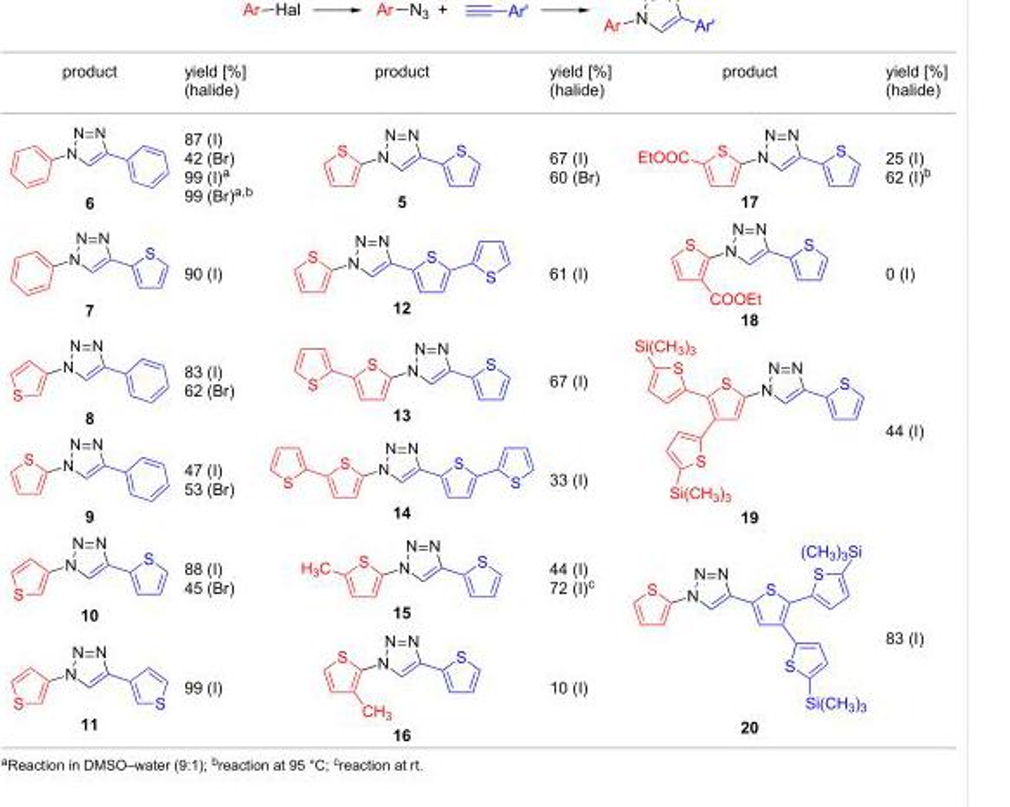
<table><tbody><tr><td>product</td><td>yield [%] (halide)</td><td>product</td><td>yield [%] (halide)</td><td>product</td><td>yield [%] (halide)</td></tr><tr><td>6</td><td>87 (I) 42 (Br) 99 (I)<sup>a</sup> 99 (Br)<sup>a,b</sup></td><td>5</td><td>67 (I) 60 (Br)</td><td>17</td><td>25 (I) 62 (I)<sup>b</sup></td></tr><tr><td>7</td><td>90 (I)</td><td>12</td><td>61 (I)</td><td>18</td><td>0 (I)</td></tr><tr><td>8</td><td>83 (I) 62 (Br)</td><td>13</td><td>67 (I)</td><td rowspan="2">19</td><td rowspan="2">44 (I)</td></tr><tr><td>9</td><td>47 (I) 53 (Br)</td><td>14</td><td>33 (I)</td></tr><tr><td>10</td><td>88 (I) 45 (Br)</td><td>15</td><td>44 (I) 72 (I)<sup>c</sup></td><td rowspan="2">20</td><td rowspan="2">83 (I)</td></tr><tr><td>11</td><td>99 (I)</td><td>16</td><td>10 (I)</td></tr></tbody></table>